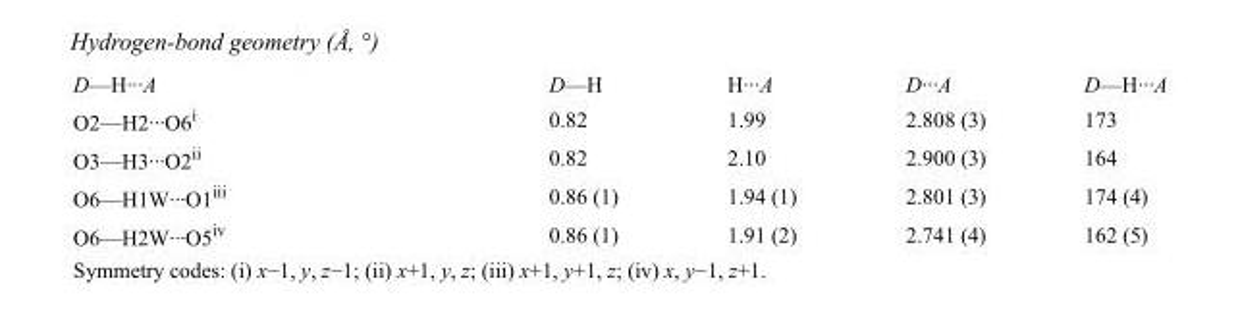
<table><tbody><tr><td>D—H···A</td><td>D—H</td><td>H···A</td><td>D···A</td><td>D—H···A</td></tr><tr><td>O2—H2···O6<sup>i</sup></td><td>0.82</td><td>1.99</td><td>2.808 (3)</td><td>173</td></tr><tr><td>O3—H3···O2<sup>ii</sup></td><td>0.82</td><td>2.10</td><td>2.900 (3)</td><td>164</td></tr><tr><td>O6—H1W···O1<sup>iii</sup></td><td>0.86 (1)</td><td>1.94 (1)</td><td>2.801 (3)</td><td>174 (4)</td></tr><tr><td>O6—H2W···O5<sup>iv</sup></td><td>0.86 (1)</td><td>1.91 (2)</td><td>2.741 (4)</td><td>162 (5)</td></tr></tbody></table>